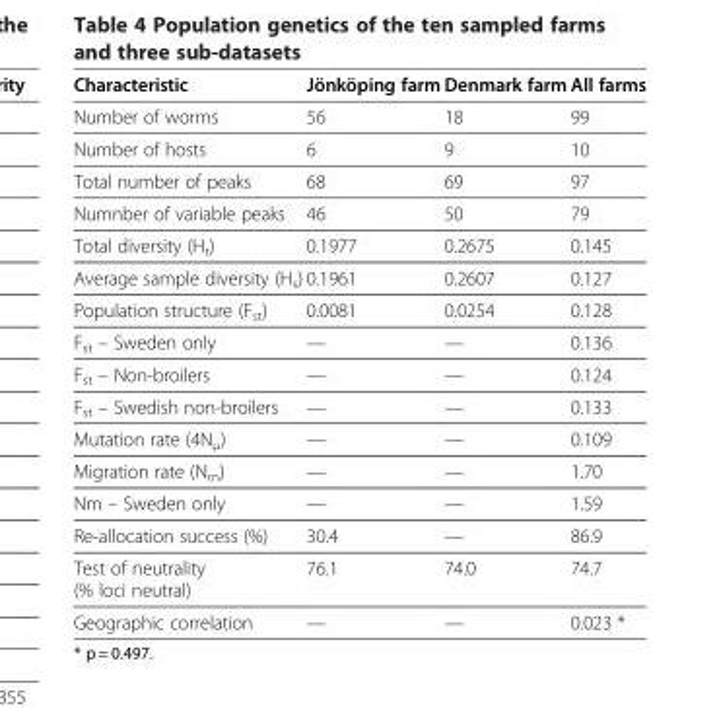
<table><thead><tr><td>Characteristic</td><td>Jönköping farm</td><td>Denmark farm</td><td>All farms</td></tr></thead><tbody><tr><td>Number of worms</td><td>56</td><td>18</td><td>99</td></tr><tr><td>Number of hosts</td><td>6</td><td>9</td><td>10</td></tr><tr><td>Total number of peaks</td><td>68</td><td>69</td><td>97</td></tr><tr><td>Numnber of variable peaks</td><td>46</td><td>50</td><td>79</td></tr><tr><td>Total diversity (H<sub>t</sub>)</td><td>0.1977</td><td>0.2675</td><td>0.145</td></tr><tr><td>Average sample diversity (H<sub>s</sub>)</td><td>0.1961</td><td>0.2607</td><td>0.127</td></tr><tr><td>Population structure (F<sub>st</sub>)</td><td>0.0081</td><td>0.0254</td><td>0.128</td></tr><tr><td>F<sub>st</sub> – Sweden only</td><td>—</td><td>—</td><td>0.136</td></tr><tr><td>F<sub>st</sub> – Non-broilers</td><td>—</td><td>—</td><td>0.124</td></tr><tr><td>F<sub>st</sub> – Swedish non-broilers</td><td>—</td><td>—</td><td>0.133</td></tr><tr><td>Mutation rate (4N<sub>μ</sub>)</td><td>—</td><td>—</td><td>0.109</td></tr><tr><td>Migration rate (N<sub>m</sub>)</td><td>—</td><td>—</td><td>1.70</td></tr><tr><td>Nm – Sweden only</td><td>—</td><td>—</td><td>1.59</td></tr><tr><td>Re-allocation success (%)</td><td>30.4</td><td>—</td><td>86.9</td></tr><tr><td>Test of neutrality (% loci neutral)</td><td>76.1</td><td>74.0</td><td>74.7</td></tr><tr><td>Geographic correlation</td><td>—</td><td>—</td><td>0.023 *</td></tr></tbody></table>